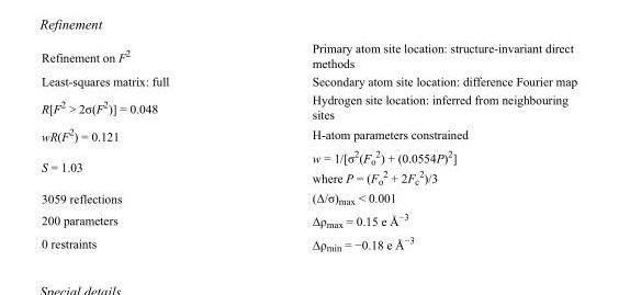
<table><tbody><tr><td>Refinement on F<sup>2</sup></td><td>Primary atom site location: structure-invariant direct methods</td></tr><tr><td>Least-squares matrix: full</td><td>Secondary atom site location: difference Fourier map</td></tr><tr><td>R[F<sup>2</sup> &gt; 2σ(F<sup>2</sup>)] = 0.048</td><td>Hydrogen site location: inferred from neighbouring sites</td></tr><tr><td>wR(F<sup>2</sup>) = 0.121</td><td>H-atom parameters constrained</td></tr><tr><td>S = 1.03</td><td>w = 1/[σ<sup>2</sup>(F<sub>o</sub> <sup>2</sup>) + (0.0554P)<sup>2</sup>] where P = (F<sub>o</sub> <sup>2</sup> + 2F<sub>c</sub> <sup>2</sup>)/3</td></tr><tr><td>3059 reflections</td><td>(Δ/σ)<sub>max</sub> &lt; 0.001</td></tr><tr><td>200 parameters</td><td>Δρ<sub>max</sub> = 0.15 e Å<sup>−3</sup></td></tr><tr><td>0 restraints</td><td>Δρ<sub>min</sub> = −0.18 e Å<sup>−3</sup></td></tr></tbody></table>